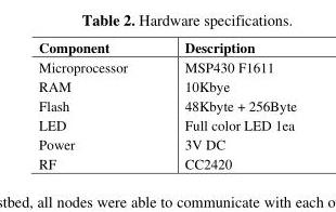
<table><thead><tr><td>Component</td><td>Description</td></tr></thead><tbody><tr><td>Microprocessor</td><td>MSP430 F1611</td></tr><tr><td>RAM</td><td>10Kbye</td></tr><tr><td>Flash</td><td>48Kbyte + 256Byte</td></tr><tr><td>LED</td><td>Full color LED 1ea</td></tr><tr><td>Power</td><td>3V DC</td></tr><tr><td>RF</td><td>CC2420</td></tr></tbody></table>